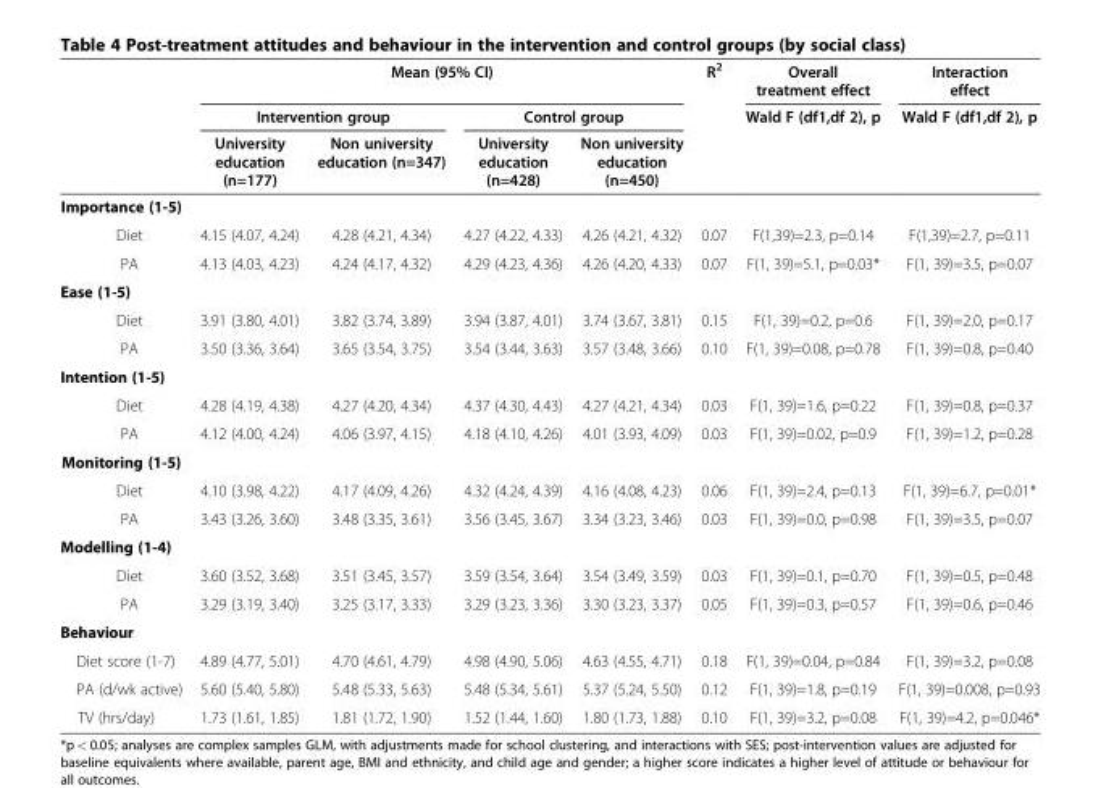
<table><thead><tr><td rowspan="3"></td><td colspan="4">Mean (95% CI)</td><td rowspan="3">R<sup>2</sup></td><td rowspan="3">Overall treatment effect Wald F (df1,df 2), p</td><td rowspan="3">Interaction effect Wald F (df1,df 2), p</td></tr><tr><td colspan="2">Intervention group</td><td colspan="2">Control group</td></tr><tr><td>University education (n=177)</td><td>Non university education (n=347)</td><td>University education (n=428)</td><td>Non university education (n=450)</td></tr></thead><tbody><tr><td colspan="8">Importance (1-5)</td></tr><tr><td>Diet</td><td>4.15 (4.07, 4.24)</td><td>4.28 (4.21, 4.34)</td><td>4.27 (4.22, 4.33)</td><td>4.26 (4.21, 4.32)</td><td>0.07</td><td>F(1,39)=2.3, p=0.14</td><td>F(1,39)=2.7, p=0.11</td></tr><tr><td>PA</td><td>4.13 (4.03, 4.23)</td><td>4.24 (4.17, 4.32)</td><td>4.29 (4.23, 4.36)</td><td>4.26 (4.20, 4.33)</td><td>0.07</td><td>F(1, 39)=5.1, p=0.03*</td><td>F(1, 39)=3.5, p=0.07</td></tr><tr><td colspan="8">Ease (1-5)</td></tr><tr><td>Diet</td><td>3.91 (3.80, 4.01)</td><td>3.82 (3.74, 3.89)</td><td>3.94 (3.87, 4.01)</td><td>3.74 (3.67, 3.81)</td><td>0.15</td><td>F(1, 39)=0.2, p=0.6</td><td>F(1, 39)=2.0, p=0.17</td></tr><tr><td>PA</td><td>3.50 (3.36, 3.64)</td><td>3.65 (3.54, 3.75)</td><td>3.54 (3.44, 3.63)</td><td>3.57 (3.48, 3.66)</td><td>0.10</td><td>F(1, 39)=0.08, p=0.78</td><td>F(1, 39)=0.8, p=0.40</td></tr><tr><td colspan="8">Intention (1-5)</td></tr><tr><td>Diet</td><td>4.28 (4.19, 4.38)</td><td>4.27 (4.20, 4.34)</td><td>4.37 (4.30, 4.43)</td><td>4.27 (4.21, 4.34)</td><td>0.03</td><td>F(1, 39)=1.6, p=0.22</td><td>F(1, 39)=0.8, p=0.37</td></tr><tr><td>PA</td><td>4.12 (4.00, 4.24)</td><td>4.06 (3.97, 4.15)</td><td>4.18 (4.10, 4.26)</td><td>4.01 (3.93, 4.09)</td><td>0.03</td><td>F(1, 39)=0.02, p=0.9</td><td>F(1, 39)=1.2, p=0.28</td></tr><tr><td colspan="8">Monitoring (1-5)</td></tr><tr><td>Diet</td><td>4.10 (3.98, 4.22)</td><td>4.17 (4.09, 4.26)</td><td>4.32 (4.24, 4.39)</td><td>4.16 (4.08, 4.23)</td><td>0.06</td><td>F(1, 39)=2.4, p=0.13</td><td>F(1, 39)=6.7, p=0.01*</td></tr><tr><td>PA</td><td>3.43 (3.26, 3.60)</td><td>3.48 (3.35, 3.61)</td><td>3.56 (3.45, 3.67)</td><td>3.34 (3.23, 3.46)</td><td>0.03</td><td>F(1, 39)=0.0, p=0.98</td><td>F(1, 39)=3.5, p=0.07</td></tr><tr><td colspan="8">Modelling (1-4)</td></tr><tr><td>Diet</td><td>3.60 (3.52, 3.68)</td><td>3.51 (3.45, 3.57)</td><td>3.59 (3.54, 3.64)</td><td>3.54 (3.49, 3.59)</td><td>0.03</td><td>F(1, 39)=0.1, p=0.70</td><td>F(1, 39)=0.5, p=0.48</td></tr><tr><td>PA</td><td>3.29 (3.19, 3.40)</td><td>3.25 (3.17, 3.33)</td><td>3.29 (3.23, 3.36)</td><td>3.30 (3.23, 3.37)</td><td>0.05</td><td>F(1, 39)=0.3, p=0.57</td><td>F(1, 39)=0.6, p=0.46</td></tr><tr><td colspan="8">Behaviour</td></tr><tr><td>Diet score (1-7)</td><td>4.89 (4.77, 5.01)</td><td>4.70 (4.61, 4.79)</td><td>4.98 (4.90, 5.06)</td><td>4.63 (4.55, 4.71)</td><td>0.18</td><td>F(1, 39)=0.04, p=0.84</td><td>F(1, 39)=3.2, p=0.08</td></tr><tr><td>PA (d/wk active)</td><td>5.60 (5.40, 5.80)</td><td>5.48 (5.33, 5.63)</td><td>5.48 (5.34, 5.61)</td><td>5.37 (5.24, 5.50)</td><td>0.12</td><td>F(1, 39)=1.8, p=0.19</td><td>F(1, 39)=0.008, p=0.93</td></tr><tr><td>TV (hrs/day)</td><td>1.73 (1.61, 1.85)</td><td>1.81 (1.72, 1.90)</td><td>1.52 (1.44, 1.60)</td><td>1.80 (1.73, 1.88)</td><td>0.10</td><td>F(1, 39)=3.2, p=0.08</td><td>F(1, 39)=4.2, p=0.046*</td></tr></tbody></table>